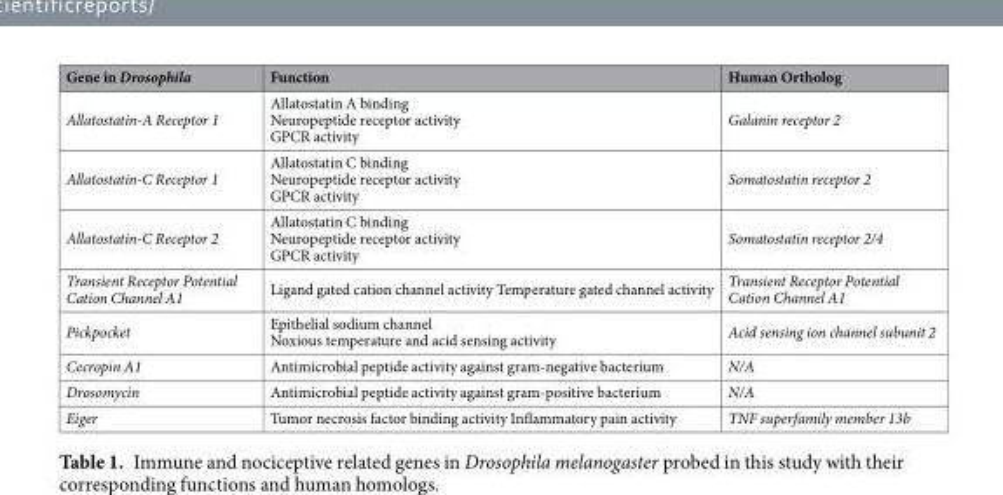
<table><thead><tr><td>Gene in Drosophila</td><td>Function</td><td>Human Ortholog</td></tr></thead><tbody><tr><td>Allatostatin-A Receptor 1</td><td>Allatostatin A binding Neuropeptide receptor activity GPCR activity</td><td>Galanin receptor 2</td></tr><tr><td>Allatostatin-C Receptor 1</td><td>Allatostatin C binding Neuropeptide receptor activity GPCR activity</td><td>Somatostatin receptor 2</td></tr><tr><td>Allatostatin-C Receptor 2</td><td>Allatostatin C binding Neuropeptide receptor activity GPCR activity</td><td>Somatostatin receptor 2/4</td></tr><tr><td>Transient Receptor Potential Cation Channel A1</td><td>Ligand gated cation channel activity Temperature gated channel activity</td><td>Transient Receptor Potential Cation Channel A1</td></tr><tr><td>Pickpocket</td><td>Epithelial sodium channel Noxious temperature and acid sensing activity</td><td>Acid sensing ion channel subunit 2</td></tr><tr><td>Cecropin A1</td><td>Antimicrobial peptide activity against gram-negative bacterium</td><td>N/A</td></tr><tr><td>Drosomycin</td><td>Antimicrobial peptide activity against gram-positive bacterium</td><td>N/A</td></tr><tr><td>Eiger</td><td>Tumor necrosis factor binding activity Inflammatory pain activity</td><td>TNF superfamily member 13b</td></tr></tbody></table>